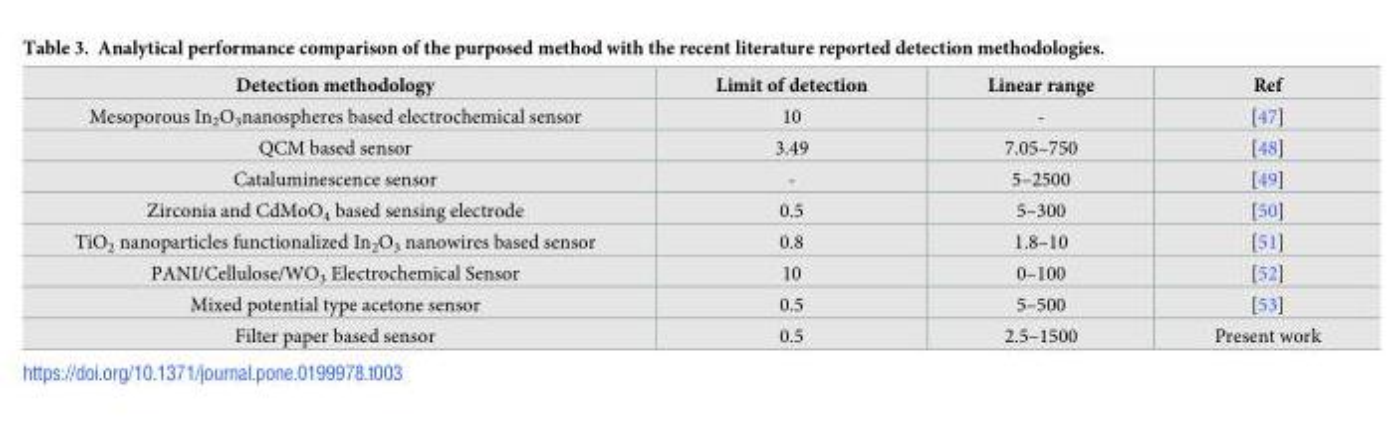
<table><thead><tr><td>Detection methodology</td><td>Limit of detection</td><td>Linear range</td><td>Ref</td></tr></thead><tbody><tr><td>Mesoporous In<sub>2</sub>O<sub>3</sub>nanospheres based electrochemical sensor</td><td>10</td><td>-</td><td>[47]</td></tr><tr><td>QCM based sensor</td><td>3.49</td><td>7.05–750</td><td>[48]</td></tr><tr><td>Cataluminescence sensor</td><td>-</td><td>5–2500</td><td>[49]</td></tr><tr><td>Zirconia and CdMoO<sub>4</sub> based sensing electrode</td><td>0.5</td><td>5–300</td><td>[50]</td></tr><tr><td>TiO<sub>2</sub> nanoparticles functionalized In<sub>2</sub>O<sub>3</sub> nanowires based sensor</td><td>0.8</td><td>1.8–10</td><td>[51]</td></tr><tr><td>PANI/Cellulose/WO<sub>3</sub> Electrochemical Sensor</td><td>10</td><td>0–100</td><td>[52]</td></tr><tr><td>Mixed potential type acetone sensor</td><td>0.5</td><td>5–500</td><td>[53]</td></tr><tr><td>Filter paper based sensor</td><td>0.5</td><td>2.5–1500</td><td>Present work</td></tr></tbody></table>